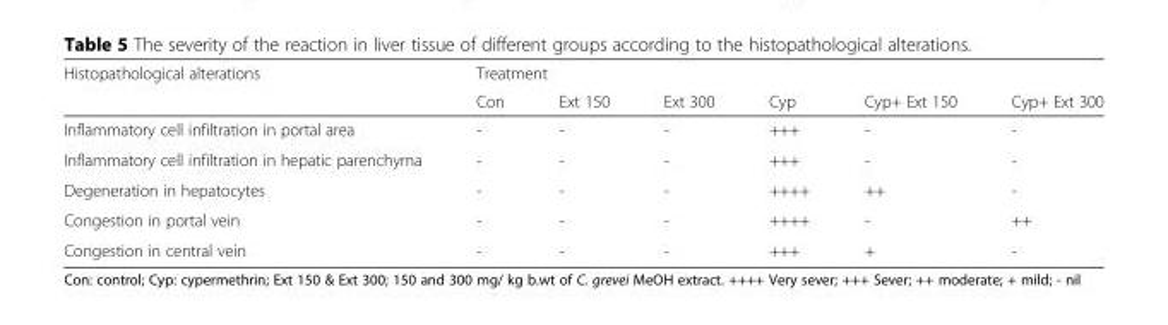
<table><thead><tr><td rowspan="2">Histopathological alterations</td><td colspan="6">Treatment</td></tr><tr><td>Con</td><td>Ext 150</td><td>Ext 300</td><td>Cyp</td><td>Cyp+ Ext 150</td><td>Cyp+ Ext 300</td></tr></thead><tbody><tr><td>Inflammatory cell infiltration in portal area</td><td>-</td><td>-</td><td>-</td><td>+++</td><td>-</td><td>-</td></tr><tr><td>Inflammatory cell infiltration in hepatic parenchyma</td><td>-</td><td>-</td><td>-</td><td>+++</td><td>-</td><td>-</td></tr><tr><td>Degeneration in hepatocytes</td><td>-</td><td>-</td><td>-</td><td>++++</td><td>++</td><td>-</td></tr><tr><td>Congestion in portal vein</td><td>-</td><td>-</td><td>-</td><td>++++</td><td>-</td><td>++</td></tr><tr><td>Congestion in central vein</td><td>-</td><td>-</td><td>-</td><td>+++</td><td>+</td><td>-</td></tr></tbody></table>